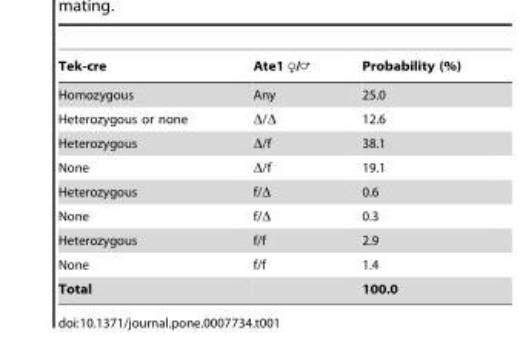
<table><thead><tr><td>Tek-cre</td><td>Ate1 R/=</td><td>Probability (%)</td></tr></thead><tbody><tr><td>Homozygous</td><td>Any</td><td>25.0</td></tr><tr><td>Heterozygous or none</td><td>Δ/Δ</td><td>12.6</td></tr><tr><td>Heterozygous</td><td>Δ/f</td><td>38.1</td></tr><tr><td>None</td><td>Δ/f</td><td>19.1</td></tr><tr><td>Heterozygous</td><td>f/Δ</td><td>0.6</td></tr><tr><td>None</td><td>f/Δ</td><td>0.3</td></tr><tr><td>Heterozygous</td><td>f/f</td><td>2.9</td></tr><tr><td>None</td><td>f/f</td><td>1.4</td></tr><tr><td>Total</td><td></td><td>100.0</td></tr></tbody></table>